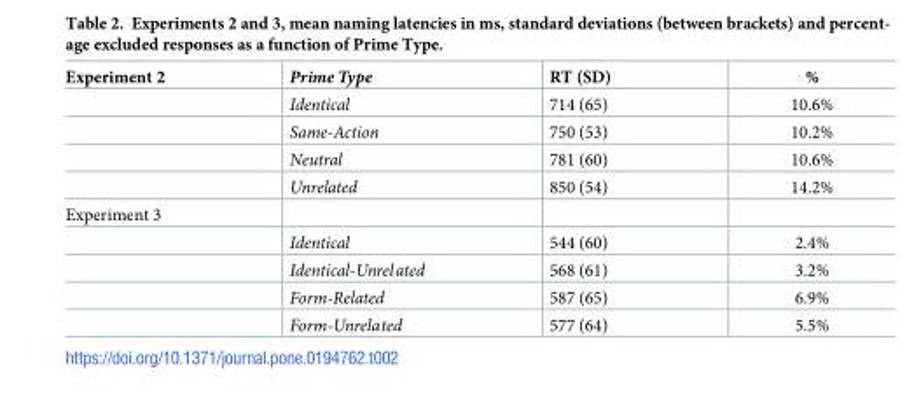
<table><tbody><tr><td rowspan="5">Experiment 2</td><td>Prime Type</td><td>RT (SD)</td><td>%</td></tr><tr><td>Identical</td><td>714 (65)</td><td>10.6%</td></tr><tr><td>Same-Action</td><td>750 (53)</td><td>10.2%</td></tr><tr><td>Neutral</td><td>781 (60)</td><td>10.6%</td></tr><tr><td>Unrelated</td><td>850 (54)</td><td>14.2%</td></tr><tr><td colspan="4">Experiment 3</td></tr><tr><td></td><td>Identical</td><td>544 (60)</td><td>2.4%</td></tr><tr><td></td><td>Identical-Unrelated</td><td>568 (61)</td><td>3.2%</td></tr><tr><td></td><td>Form-Related</td><td>587 (65)</td><td>6.9%</td></tr><tr><td></td><td>Form-Unrelated</td><td>577 (64)</td><td>5.5%</td></tr></tbody></table>